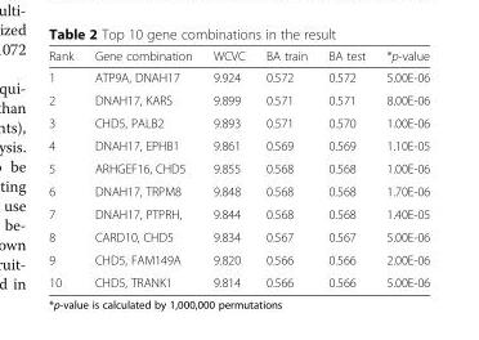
<table><thead><tr><td>Rank</td><td>Gene combination</td><td>WCVC</td><td>BA train</td><td>BA test</td><td>*p-value</td></tr></thead><tbody><tr><td>1</td><td>ATP9A, DNAH17</td><td>9.924</td><td>0.572</td><td>0.572</td><td>5.00E-06</td></tr><tr><td>2</td><td>DNAH17, KARS</td><td>9.899</td><td>0.571</td><td>0.571</td><td>8.00E-06</td></tr><tr><td>3</td><td>CHD5, PALB2</td><td>9.893</td><td>0.571</td><td>0.570</td><td>1.00E-06</td></tr><tr><td>4</td><td>DNAH17, EPHB1</td><td>9.861</td><td>0.569</td><td>0.569</td><td>1.10E-05</td></tr><tr><td>5</td><td>ARHGEF16, CHD5</td><td>9.855</td><td>0.568</td><td>0.568</td><td>1.00E-06</td></tr><tr><td>6</td><td>DNAH17, TRPM8</td><td>9.848</td><td>0.568</td><td>0.568</td><td>1.70E-06</td></tr><tr><td>7</td><td>DNAH17, PTPRH,</td><td>9.844</td><td>0.568</td><td>0.568</td><td>1.40E-05</td></tr><tr><td>8</td><td>CARD10, CHD5</td><td>9.834</td><td>0.567</td><td>0.567</td><td>5.00E-06</td></tr><tr><td>9</td><td>CHD5, FAM149A</td><td>9.820</td><td>0.566</td><td>0.566</td><td>2.00E-06</td></tr><tr><td>10</td><td>CHD5, TRANK1</td><td>9.814</td><td>0.566</td><td>0.566</td><td>5.00E-06</td></tr></tbody></table>